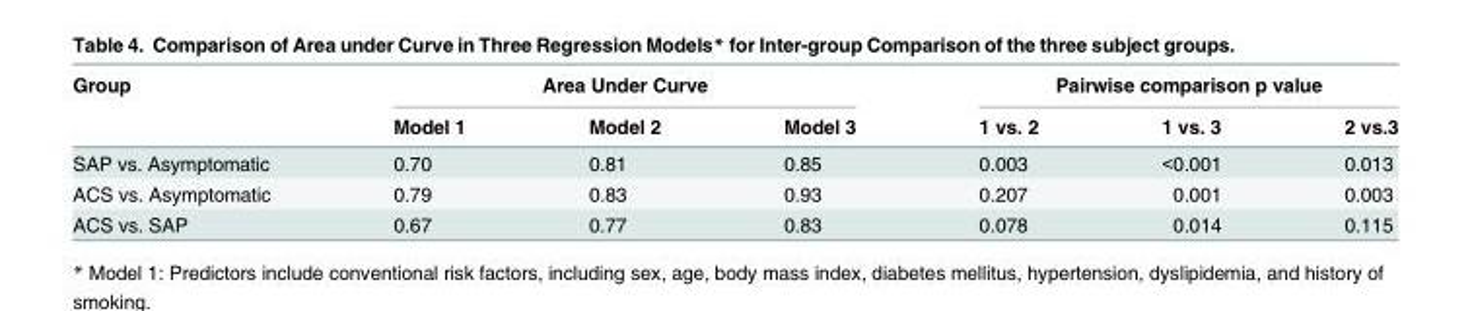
<table><thead><tr><td rowspan="2">Group</td><td colspan="3">Area Under Curve</td><td colspan="3">Pairwise comparison p value</td></tr><tr><td>Model 1</td><td>Model 2</td><td>Model 3</td><td>1 vs. 2</td><td>1 vs. 3</td><td>2 vs.3</td></tr></thead><tbody><tr><td>SAP vs. Asymptomatic</td><td>0.70</td><td>0.81</td><td>0.85</td><td>0.003</td><td>&lt;0.001</td><td>0.013</td></tr><tr><td>ACS vs. Asymptomatic</td><td>0.79</td><td>0.83</td><td>0.93</td><td>0.207</td><td>0.001</td><td>0.003</td></tr><tr><td>ACS vs. SAP</td><td>0.67</td><td>0.77</td><td>0.83</td><td>0.078</td><td>0.014</td><td>0.115</td></tr></tbody></table>